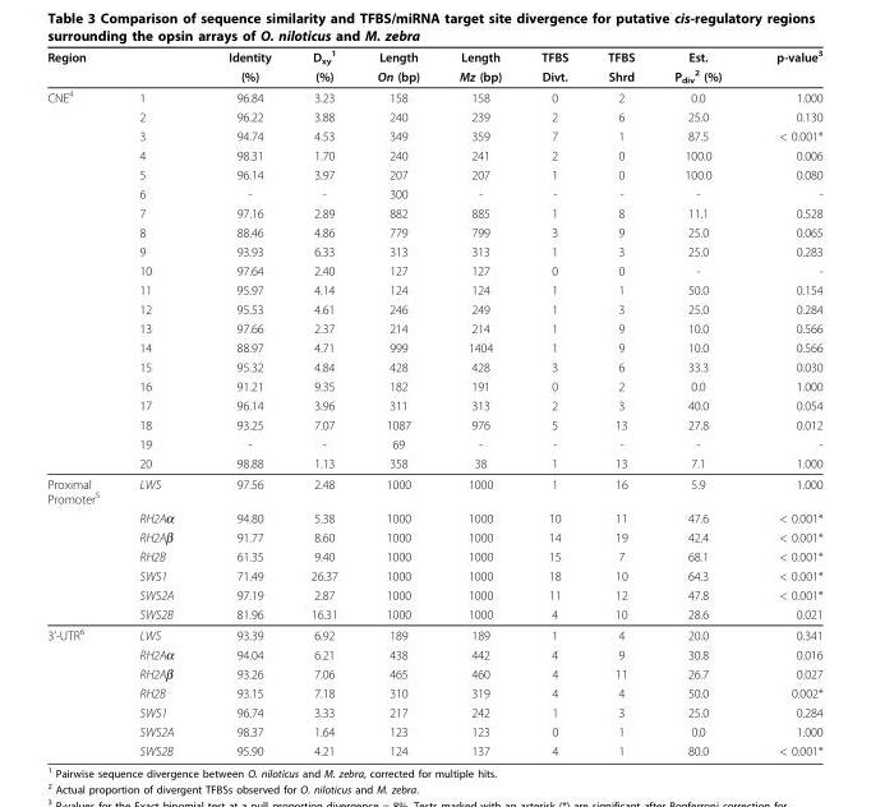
<table><thead><tr><td colspan="2">Region</td><td rowspan="2">Identity (%)</td><td rowspan="2">D<sub>xy</sub> <sup>1</sup> (%)</td><td rowspan="2">Length On (bp)</td><td rowspan="2">Length Mz (bp)</td><td rowspan="2">TFBS Divt.</td><td rowspan="2">TFBS Shrd</td><td rowspan="2">Est. P<sub>div</sub> <sup>2</sup> (%)</td><td rowspan="2">p-value<sup>3</sup></td></tr><tr><td></td><td></td></tr></thead><tbody><tr><td rowspan="20">CNE<sup>4</sup></td><td>1</td><td>96.84</td><td>3.23</td><td>158</td><td>158</td><td>0</td><td>2</td><td>0.0</td><td>1.000</td></tr><tr><td>2</td><td>96.22</td><td>3.88</td><td>240</td><td>239</td><td>2</td><td>6</td><td>25.0</td><td>0.130</td></tr><tr><td>3</td><td>94.74</td><td>4.53</td><td>349</td><td>359</td><td>7</td><td>1</td><td>87.5</td><td>&lt; 0.001*</td></tr><tr><td>4</td><td>98.31</td><td>1.70</td><td>240</td><td>241</td><td>2</td><td>0</td><td>100.0</td><td>0.006</td></tr><tr><td>5</td><td>96.14</td><td>3.97</td><td>207</td><td>207</td><td>1</td><td>0</td><td>100.0</td><td>0.080</td></tr><tr><td>6</td><td>-</td><td>-</td><td>300</td><td>-</td><td>-</td><td>-</td><td>-</td><td>-</td></tr><tr><td>7</td><td>97.16</td><td>2.89</td><td>882</td><td>885</td><td>1</td><td>8</td><td>11.1</td><td>0.528</td></tr><tr><td>8</td><td>88.46</td><td>4.86</td><td>779</td><td>799</td><td>3</td><td>9</td><td>25.0</td><td>0.065</td></tr><tr><td>9</td><td>93.93</td><td>6.33</td><td>313</td><td>313</td><td>1</td><td>3</td><td>25.0</td><td>0.283</td></tr><tr><td>10</td><td>97.64</td><td>2.40</td><td>127</td><td>127</td><td>0</td><td>0</td><td>-</td><td>-</td></tr><tr><td>11</td><td>95.97</td><td>4.14</td><td>124</td><td>124</td><td>1</td><td>1</td><td>50.0</td><td>0.154</td></tr><tr><td>12</td><td>95.53</td><td>4.61</td><td>246</td><td>249</td><td>1</td><td>3</td><td>25.0</td><td>0.284</td></tr><tr><td>13</td><td>97.66</td><td>2.37</td><td>214</td><td>214</td><td>1</td><td>9</td><td>10.0</td><td>0.566</td></tr><tr><td>14</td><td>88.97</td><td>4.71</td><td>999</td><td>1404</td><td>1</td><td>9</td><td>10.0</td><td>0.566</td></tr><tr><td>15</td><td>95.32</td><td>4.84</td><td>428</td><td>428</td><td>3</td><td>6</td><td>33.3</td><td>0.030</td></tr><tr><td>16</td><td>91.21</td><td>9.35</td><td>182</td><td>191</td><td>0</td><td>2</td><td>0.0</td><td>1.000</td></tr><tr><td>17</td><td>96.14</td><td>3.96</td><td>311</td><td>313</td><td>2</td><td>3</td><td>40.0</td><td>0.054</td></tr><tr><td>18</td><td>93.25</td><td>7.07</td><td>1087</td><td>976</td><td>5</td><td>13</td><td>27.8</td><td>0.012</td></tr><tr><td>19</td><td>-</td><td>-</td><td>69</td><td>-</td><td>-</td><td>-</td><td>-</td><td>-</td></tr><tr><td>20</td><td>98.88</td><td>1.13</td><td>358</td><td>38</td><td>1</td><td>13</td><td>7.1</td><td>1.000</td></tr><tr><td rowspan="7">Proximal Promoter<sup>5</sup></td><td>LWS</td><td>97.56</td><td>2.48</td><td>1000</td><td>1000</td><td>1</td><td>16</td><td>5.9</td><td>1.000</td></tr><tr><td>RH2Aα</td><td>94.80</td><td>5.38</td><td>1000</td><td>1000</td><td>10</td><td>11</td><td>47.6</td><td>&lt; 0.001*</td></tr><tr><td>RH2Aβ</td><td>91.77</td><td>8.60</td><td>1000</td><td>1000</td><td>14</td><td>19</td><td>42.4</td><td>&lt; 0.001*</td></tr><tr><td>RH2B</td><td>61.35</td><td>9.40</td><td>1000</td><td>1000</td><td>15</td><td>7</td><td>68.1</td><td>&lt; 0.001*</td></tr><tr><td>SWS1</td><td>71.49</td><td>26.37</td><td>1000</td><td>1000</td><td>18</td><td>10</td><td>64.3</td><td>&lt; 0.001*</td></tr><tr><td>SWS2A</td><td>97.19</td><td>2.87</td><td>1000</td><td>1000</td><td>11</td><td>12</td><td>47.8</td><td>&lt; 0.001*</td></tr><tr><td>SWS2B</td><td>81.96</td><td>16.31</td><td>1000</td><td>1000</td><td>4</td><td>10</td><td>28.6</td><td>0.021</td></tr><tr><td rowspan="7">3’-UTR<sup>6</sup></td><td>LWS</td><td>93.39</td><td>6.92</td><td>189</td><td>189</td><td>1</td><td>4</td><td>20.0</td><td>0.341</td></tr><tr><td>RH2Aα</td><td>94.04</td><td>6.21</td><td>438</td><td>442</td><td>4</td><td>9</td><td>30.8</td><td>0.016</td></tr><tr><td>RH2Aβ</td><td>93.26</td><td>7.06</td><td>465</td><td>460</td><td>4</td><td>11</td><td>26.7</td><td>0.027</td></tr><tr><td>RH2B</td><td>93.15</td><td>7.18</td><td>310</td><td>319</td><td>4</td><td>4</td><td>50.0</td><td>0.002*</td></tr><tr><td>SWS1</td><td>96.74</td><td>3.33</td><td>217</td><td>242</td><td>1</td><td>3</td><td>25.0</td><td>0.284</td></tr><tr><td>SWS2A</td><td>98.37</td><td>1.64</td><td>123</td><td>123</td><td>0</td><td>1</td><td>0.0</td><td>1.000</td></tr><tr><td>SWS2B</td><td>95.90</td><td>4.21</td><td>124</td><td>137</td><td>4</td><td>1</td><td>80.0</td><td>&lt; 0.001*</td></tr></tbody></table>